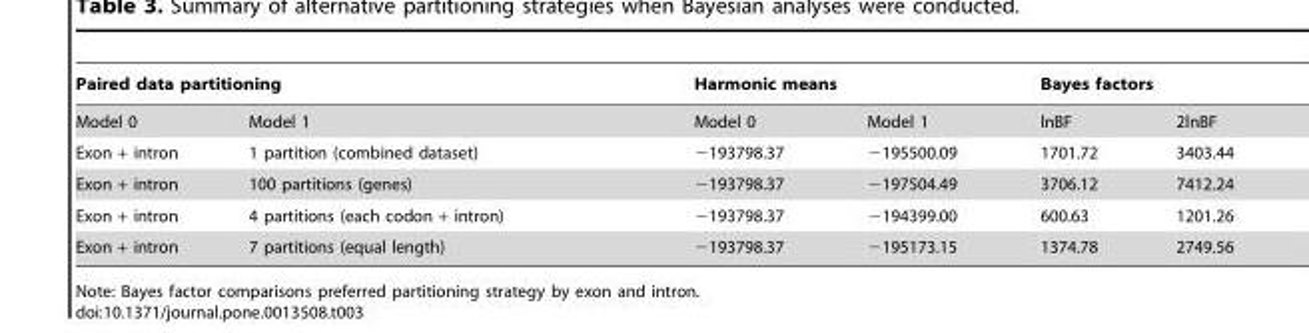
<table><thead><tr><td colspan="2">Paired data partitioning</td><td colspan="2">Harmonic means</td><td colspan="2">Bayes factors</td></tr><tr><td>Model 0</td><td>Model 1</td><td>Model 0</td><td>Model 1</td><td>lnBF</td><td>2lnBF</td></tr></thead><tbody><tr><td>Exon + intron</td><td>1 partition (combined dataset)</td><td>−193798.37</td><td>−195500.09</td><td>1701.72</td><td>3403.44</td></tr><tr><td>Exon + intron</td><td>100 partitions (genes)</td><td>−193798.37</td><td>−197504.49</td><td>3706.12</td><td>7412.24</td></tr><tr><td>Exon + intron</td><td>4 partitions (each codon + intron)</td><td>−193798.37</td><td>−194399.00</td><td>600.63</td><td>1201.26</td></tr><tr><td>Exon + intron</td><td>7 partitions (equal length)</td><td>−193798.37</td><td>−195173.15</td><td>1374.78</td><td>2749.56</td></tr></tbody></table>